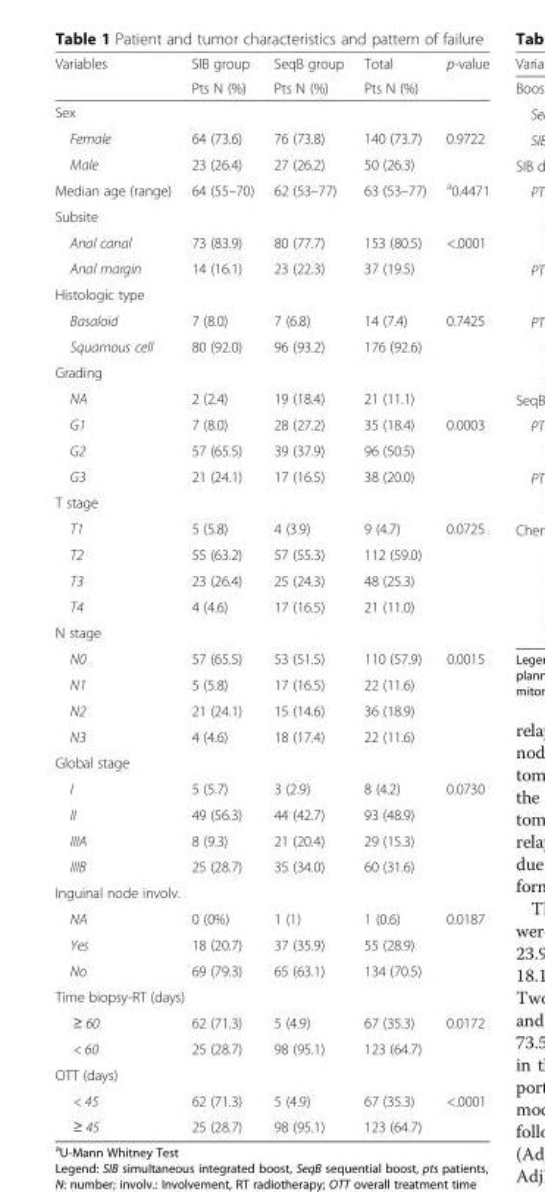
<table><thead><tr><td rowspan="2">Variables</td><td rowspan="2">SIB group Pts N (%)</td><td rowspan="2">SeqB group Pts N (%)</td><td rowspan="2">Total Pts N (%)</td><td rowspan="2">p-value</td></tr><tr></tr></thead><tbody><tr><td colspan="5">Sex</td></tr><tr><td>Female</td><td>64 (73.6)</td><td>76 (73.8)</td><td>140 (73.7)</td><td>0.9722</td></tr><tr><td>Male</td><td>23 (26.4)</td><td>27 (26.2)</td><td>50 (26.3)</td><td></td></tr><tr><td>Median age (range)</td><td>64 (55–70)</td><td>62 (53–77)</td><td>63 (53–77)</td><td><sup>a</sup>0.4471</td></tr><tr><td colspan="5">Subsite</td></tr><tr><td>Anal canal</td><td>73 (83.9)</td><td>80 (77.7)</td><td>153 (80.5)</td><td>&lt;.0001</td></tr><tr><td>Anal margin</td><td>14 (16.1)</td><td>23 (22.3)</td><td>37 (19.5)</td><td></td></tr><tr><td colspan="5">Histologic type</td></tr><tr><td>Basaloid</td><td>7 (8.0)</td><td>7 (6.8)</td><td>14 (7.4)</td><td>0.7425</td></tr><tr><td>Squamous cell</td><td>80 (92.0)</td><td>96 (93.2)</td><td>176 (92.6)</td><td></td></tr><tr><td colspan="5">Grading</td></tr><tr><td>NA</td><td>2 (2.4)</td><td>19 (18.4)</td><td>21 (11.1)</td><td></td></tr><tr><td>G1</td><td>7 (8.0)</td><td>28 (27.2)</td><td>35 (18.4)</td><td>0.0003</td></tr><tr><td>G2</td><td>57 (65.5)</td><td>39 (37.9)</td><td>96 (50.5)</td><td></td></tr><tr><td>G3</td><td>21 (24.1)</td><td>17 (16.5)</td><td>38 (20.0)</td><td></td></tr><tr><td colspan="5">T stage</td></tr><tr><td>T1</td><td>5 (5.8)</td><td>4 (3.9)</td><td>9 (4.7)</td><td>0.0725</td></tr><tr><td>T2</td><td>55 (63.2)</td><td>57 (55.3)</td><td>112 (59.0)</td><td></td></tr><tr><td>T3</td><td>23 (26.4)</td><td>25 (24.3)</td><td>48 (25.3)</td><td></td></tr><tr><td>T4</td><td>4 (4.6)</td><td>17 (16.5)</td><td>21 (11.0)</td><td></td></tr><tr><td colspan="5">N stage</td></tr><tr><td>N0</td><td>57 (65.5)</td><td>53 (51.5)</td><td>110 (57.9)</td><td>0.0015</td></tr><tr><td>N1</td><td>5 (5.8)</td><td>17 (16.5)</td><td>22 (11.6)</td><td></td></tr><tr><td>N2</td><td>21 (24.1)</td><td>15 (14.6)</td><td>36 (18.9)</td><td></td></tr><tr><td>N3</td><td>4 (4.6)</td><td>18 (17.4)</td><td>22 (11.6)</td><td></td></tr><tr><td colspan="5">Global stage</td></tr><tr><td>I</td><td>5 (5.7)</td><td>3 (2.9)</td><td>8 (4.2)</td><td>0.0730</td></tr><tr><td>II</td><td>49 (56.3)</td><td>44 (42.7)</td><td>93 (48.9)</td><td></td></tr><tr><td>IIIA</td><td>8 (9.3)</td><td>21 (20.4)</td><td>29 (15.3)</td><td></td></tr><tr><td>IIIB</td><td>25 (28.7)</td><td>35 (34.0)</td><td>60 (31.6)</td><td></td></tr><tr><td colspan="5">Inguinal node involv.</td></tr><tr><td>NA</td><td>0 (0%)</td><td>1 (1)</td><td>1 (0.6)</td><td>0.0187</td></tr><tr><td>Yes</td><td>18 (20.7)</td><td>37 (35.9)</td><td>55 (28.9)</td><td></td></tr><tr><td>No</td><td>69 (79.3)</td><td>65 (63.1)</td><td>134 (70.5)</td><td></td></tr><tr><td colspan="5">Time biopsy-RT (days)</td></tr><tr><td>≥ 60</td><td>62 (71.3)</td><td>5 (4.9)</td><td>67 (35.3)</td><td>0.0172</td></tr><tr><td>&lt; 60</td><td>25 (28.7)</td><td>98 (95.1)</td><td>123 (64.7)</td><td></td></tr><tr><td colspan="5">OTT (days)</td></tr><tr><td>&lt; 45</td><td>62 (71.3)</td><td>5 (4.9)</td><td>67 (35.3)</td><td>&lt;.0001</td></tr><tr><td>≥ 45</td><td>25 (28.7)</td><td>98 (95.1)</td><td>123 (64.7)</td><td></td></tr></tbody></table>